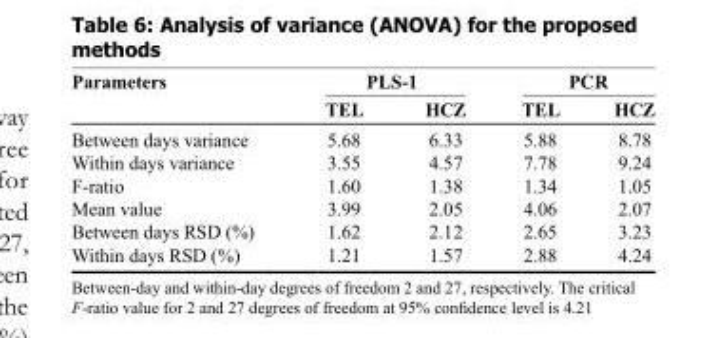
<table><thead><tr><td rowspan="2">Parameters</td><td colspan="2">PLS-1</td><td colspan="2">PCR</td></tr><tr><td>TEL</td><td>HCZ</td><td>TEL</td><td>HCZ</td></tr></thead><tbody><tr><td>Between days variance</td><td>5.68</td><td>6.33</td><td>5.88</td><td>8.78</td></tr><tr><td>Within days variance</td><td>3.55</td><td>4.57</td><td>7.78</td><td>9.24</td></tr><tr><td>F-ratio</td><td>1.60</td><td>1.38</td><td>1.34</td><td>1.05</td></tr><tr><td>Mean value</td><td>3.99</td><td>2.05</td><td>4.06</td><td>2.07</td></tr><tr><td>Between days RSD (%)</td><td>1.62</td><td>2.12</td><td>2.65</td><td>3.23</td></tr><tr><td>Within days RSD (%)</td><td>1.21</td><td>1.57</td><td>2.88</td><td>4.24</td></tr></tbody></table>